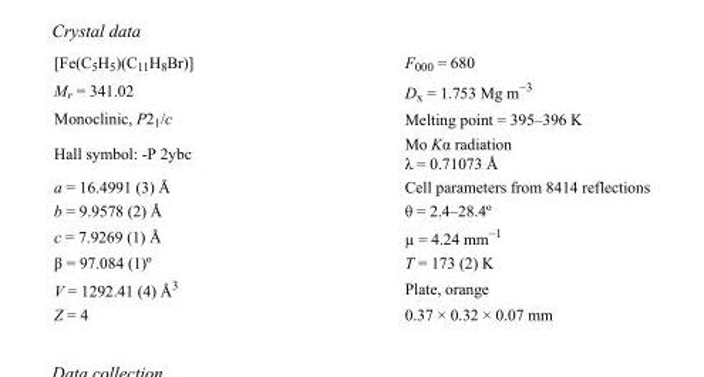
<table><tbody><tr><td>[Fe(C<sub>5</sub>H<sub>5</sub>)(C<sub>11</sub>H<sub>8</sub>Br)]</td><td>F000 = 680</td></tr><tr><td>M<sub>r</sub> = 341.02</td><td>D<sub>x</sub> = 1.753 Mg m<sup>−3</sup></td></tr><tr><td>Monoclinic, P2<sub>1</sub>/c</td><td>Melting point = 395–396 K</td></tr><tr><td>Hall symbol: -P 2ybc</td><td>Mo Kα radiation λ = 0.71073 Å</td></tr><tr><td>a = 16.4991 (3) Å</td><td>Cell parameters from 8414 reflections</td></tr><tr><td>b = 9.9578 (2) Å</td><td>θ = 2.4–28.4º</td></tr><tr><td>c = 7.9269 (1) Å</td><td>µ = 4.24 mm<sup>−1</sup></td></tr><tr><td>β = 97.084 (1)º</td><td>T = 173 (2) K</td></tr><tr><td>V = 1292.41 (4) Å<sup>3</sup></td><td>Plate, orange</td></tr><tr><td>Z = 4</td><td>0.37 × 0.32 × 0.07 mm</td></tr></tbody></table>